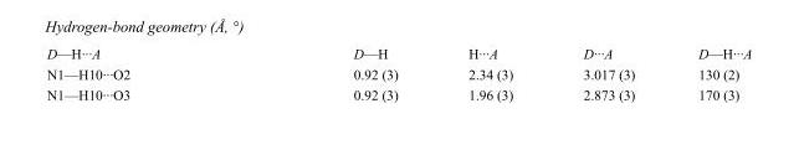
<table><tbody><tr><td>D—H···A</td><td>D—H</td><td>H···A</td><td>D···A</td><td>D—H···A</td></tr><tr><td>N1—H10···O2</td><td>0.92 (3)</td><td>2.34 (3)</td><td>3.017 (3)</td><td>130 (2)</td></tr><tr><td>N1—H10···O3</td><td>0.92 (3)</td><td>1.96 (3)</td><td>2.873 (3)</td><td>170 (3)</td></tr></tbody></table>